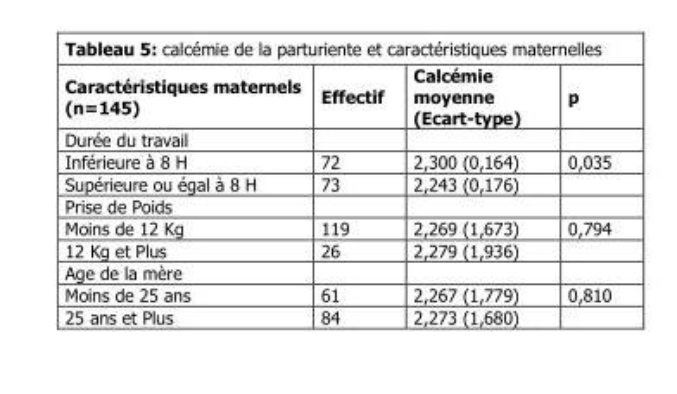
<table><thead><tr><td>Caractéristiques maternels (n=145)</td><td>Effectif</td><td>Calcémie moyenne (Ecart-type)</td><td>p</td></tr></thead><tbody><tr><td colspan="4">Durée du travail</td></tr><tr><td>Inférieure à 8 H</td><td>72</td><td>2,300 (0,164)</td><td>0,035</td></tr><tr><td>Supérieure ou égal à 8 H</td><td>73</td><td>2,243 (0,176)</td><td></td></tr><tr><td colspan="4">Prise de Poids</td></tr><tr><td>Moins de 12 Kg</td><td>119</td><td>2,269 (1,673)</td><td>0,794</td></tr><tr><td>12 Kg et Plus</td><td>26</td><td>2,279 (1,936)</td><td></td></tr><tr><td colspan="4">Age de la mère</td></tr><tr><td>Moins de 25 ans</td><td>61</td><td>2,267 (1,779)</td><td>0,810</td></tr><tr><td>25 ans et Plus</td><td>84</td><td>2,273 (1,680)</td><td></td></tr></tbody></table>